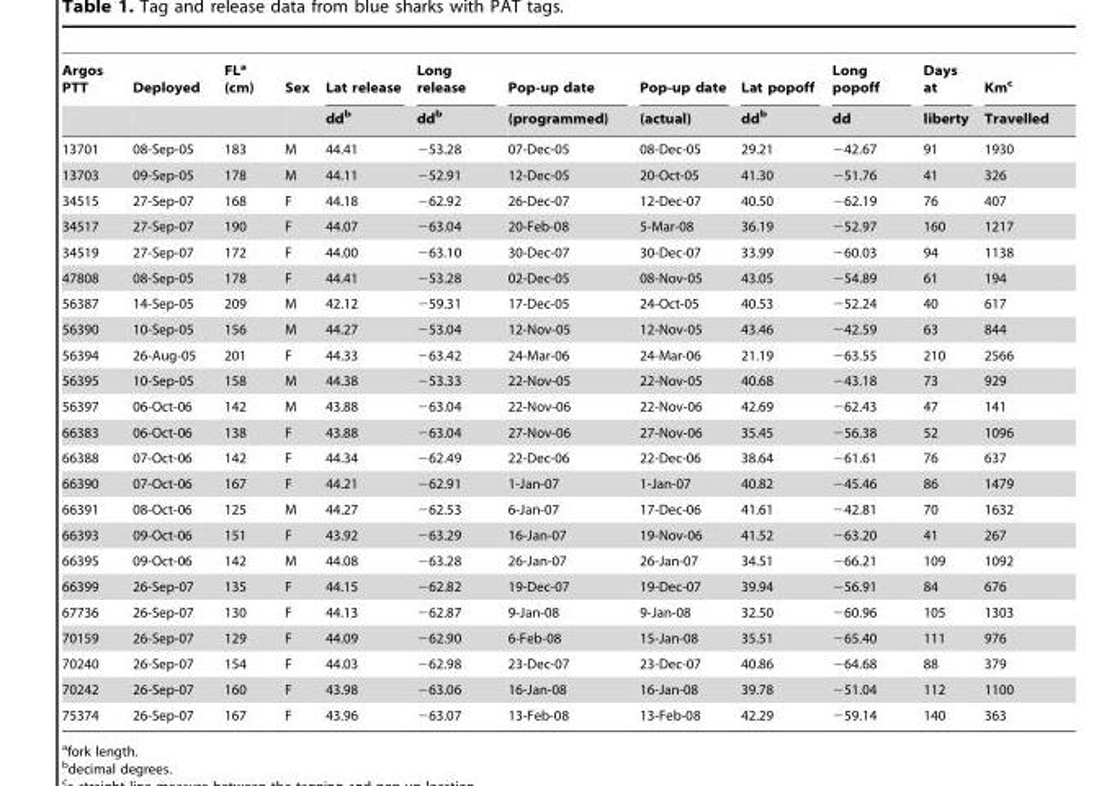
<table><thead><tr><td rowspan="2">Argos PTT</td><td rowspan="2">Deployed</td><td rowspan="2">FL<sup>a</sup> (cm)</td><td rowspan="2">Sex</td><td rowspan="2">Lat release dd<sup>b</sup></td><td rowspan="2">Long release dd<sup>b</sup></td><td rowspan="2">Pop-up date (programmed)</td><td rowspan="2">Pop-up date (actual)</td><td rowspan="2">Lat popoff dd<sup>b</sup></td><td rowspan="2">Long popoff dd</td><td rowspan="2">Days at liberty</td><td rowspan="2">Km<sup>c</sup> Travelled</td></tr><tr></tr></thead><tbody><tr><td>13701</td><td>08-Sep-05</td><td>183</td><td>M</td><td>44.41</td><td>−53.28</td><td>07-Dec-05</td><td>08-Dec-05</td><td>29.21</td><td>−42.67</td><td>91</td><td>1930</td></tr><tr><td>13703</td><td>09-Sep-05</td><td>178</td><td>M</td><td>44.11</td><td>−52.91</td><td>12-Dec-05</td><td>20-Oct-05</td><td>41.30</td><td>−51.76</td><td>41</td><td>326</td></tr><tr><td>34515</td><td>27-Sep-07</td><td>168</td><td>F</td><td>44.18</td><td>−62.92</td><td>26-Dec-07</td><td>12-Dec-07</td><td>40.50</td><td>−62.19</td><td>76</td><td>407</td></tr><tr><td>34517</td><td>27-Sep-07</td><td>190</td><td>F</td><td>44.07</td><td>−63.04</td><td>20-Feb-08</td><td>5-Mar-08</td><td>36.19</td><td>−52.97</td><td>160</td><td>1217</td></tr><tr><td>34519</td><td>27-Sep-07</td><td>172</td><td>F</td><td>44.00</td><td>−63.10</td><td>30-Dec-07</td><td>30-Dec-07</td><td>33.99</td><td>−60.03</td><td>94</td><td>1138</td></tr><tr><td>47808</td><td>08-Sep-05</td><td>178</td><td>F</td><td>44.41</td><td>−53.28</td><td>02-Dec-05</td><td>08-Nov-05</td><td>43.05</td><td>−54.89</td><td>61</td><td>194</td></tr><tr><td>56387</td><td>14-Sep-05</td><td>209</td><td>M</td><td>42.12</td><td>−59.31</td><td>17-Dec-05</td><td>24-Oct-05</td><td>40.53</td><td>−52.24</td><td>40</td><td>617</td></tr><tr><td>56390</td><td>10-Sep-05</td><td>156</td><td>M</td><td>44.27</td><td>−53.04</td><td>12-Nov-05</td><td>12-Nov-05</td><td>43.46</td><td>−42.59</td><td>63</td><td>844</td></tr><tr><td>56394</td><td>26-Aug-05</td><td>201</td><td>F</td><td>44.33</td><td>−63.42</td><td>24-Mar-06</td><td>24-Mar-06</td><td>21.19</td><td>−63.55</td><td>210</td><td>2566</td></tr><tr><td>56395</td><td>10-Sep-05</td><td>158</td><td>M</td><td>44.38</td><td>−53.33</td><td>22-Nov-05</td><td>22-Nov-05</td><td>40.68</td><td>−43.18</td><td>73</td><td>929</td></tr><tr><td>56397</td><td>06-Oct-06</td><td>142</td><td>M</td><td>43.88</td><td>−63.04</td><td>22-Nov-06</td><td>22-Nov-06</td><td>42.69</td><td>−62.43</td><td>47</td><td>141</td></tr><tr><td>66383</td><td>06-Oct-06</td><td>138</td><td>F</td><td>43.88</td><td>−63.04</td><td>27-Nov-06</td><td>27-Nov-06</td><td>35.45</td><td>−56.38</td><td>52</td><td>1096</td></tr><tr><td>66388</td><td>07-Oct-06</td><td>142</td><td>F</td><td>44.34</td><td>−62.49</td><td>22-Dec-06</td><td>22-Dec-06</td><td>38.64</td><td>−61.61</td><td>76</td><td>637</td></tr><tr><td>66390</td><td>07-Oct-06</td><td>167</td><td>F</td><td>44.21</td><td>−62.91</td><td>1-Jan-07</td><td>1-Jan-07</td><td>40.82</td><td>−45.46</td><td>86</td><td>1479</td></tr><tr><td>66391</td><td>08-Oct-06</td><td>125</td><td>M</td><td>44.27</td><td>−62.53</td><td>6-Jan-07</td><td>17-Dec-06</td><td>41.61</td><td>−42.81</td><td>70</td><td>1632</td></tr><tr><td>66393</td><td>09-Oct-06</td><td>151</td><td>F</td><td>43.92</td><td>−63.29</td><td>16-Jan-07</td><td>19-Nov-06</td><td>41.52</td><td>−63.20</td><td>41</td><td>267</td></tr><tr><td>66395</td><td>09-Oct-06</td><td>142</td><td>M</td><td>44.08</td><td>−63.28</td><td>26-Jan-07</td><td>26-Jan-07</td><td>34.51</td><td>−66.21</td><td>109</td><td>1092</td></tr><tr><td>66399</td><td>26-Sep-07</td><td>135</td><td>F</td><td>44.15</td><td>−62.82</td><td>19-Dec-07</td><td>19-Dec-07</td><td>39.94</td><td>−56.91</td><td>84</td><td>676</td></tr><tr><td>67736</td><td>26-Sep-07</td><td>130</td><td>F</td><td>44.13</td><td>−62.87</td><td>9-Jan-08</td><td>9-Jan-08</td><td>32.50</td><td>−60.96</td><td>105</td><td>1303</td></tr><tr><td>70159</td><td>26-Sep-07</td><td>129</td><td>F</td><td>44.09</td><td>−62.90</td><td>6-Feb-08</td><td>15-Jan-08</td><td>35.51</td><td>−65.40</td><td>111</td><td>976</td></tr><tr><td>70240</td><td>26-Sep-07</td><td>154</td><td>F</td><td>44.03</td><td>−62.98</td><td>23-Dec-07</td><td>23-Dec-07</td><td>40.86</td><td>−64.68</td><td>88</td><td>379</td></tr><tr><td>70242</td><td>26-Sep-07</td><td>160</td><td>F</td><td>43.98</td><td>−63.06</td><td>16-Jan-08</td><td>16-Jan-08</td><td>39.78</td><td>−51.04</td><td>112</td><td>1100</td></tr><tr><td>75374</td><td>26-Sep-07</td><td>167</td><td>F</td><td>43.96</td><td>−63.07</td><td>13-Feb-08</td><td>13-Feb-08</td><td>42.29</td><td>−59.14</td><td>140</td><td>363</td></tr></tbody></table>